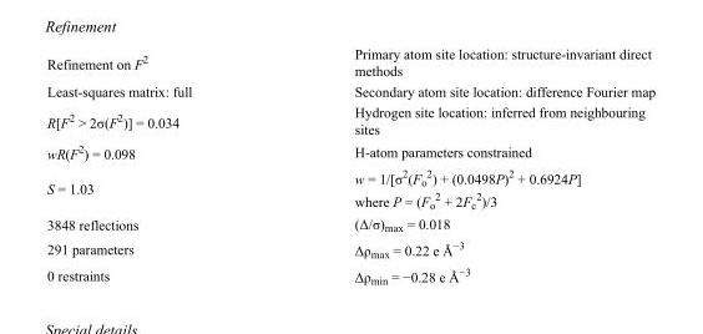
<table><tbody><tr><td>Refinement on F<sup>2</sup></td><td>Primary atom site location: structure-invariant direct methods</td></tr><tr><td>Least-squares matrix: full</td><td>Secondary atom site location: difference Fourier map</td></tr><tr><td>R[F<sup>2</sup> &gt; 2σ(F<sup>2</sup>)] = 0.034</td><td>Hydrogen site location: inferred from neighbouring sites</td></tr><tr><td>wR(F<sup>2</sup>) = 0.098</td><td>H-atom parameters constrained</td></tr><tr><td>S = 1.03</td><td>w = 1/[σ<sup>2</sup>(F<sub>o</sub> <sup>2</sup>) + (0.0498P)<sup>2</sup> + 0.6924P] where P = (F<sub>o</sub> <sup>2</sup> + 2F<sub>c</sub> <sup>2</sup>)/3</td></tr><tr><td>3848 reflections</td><td>(Δ/σ)<sub>max</sub> = 0.018</td></tr><tr><td>291 parameters</td><td>Δρ<sub>max</sub> = 0.22 e Å<sup>−3</sup></td></tr><tr><td>0 restraints</td><td>Δρ<sub>min</sub> = −0.28 e Å<sup>−3</sup></td></tr></tbody></table>